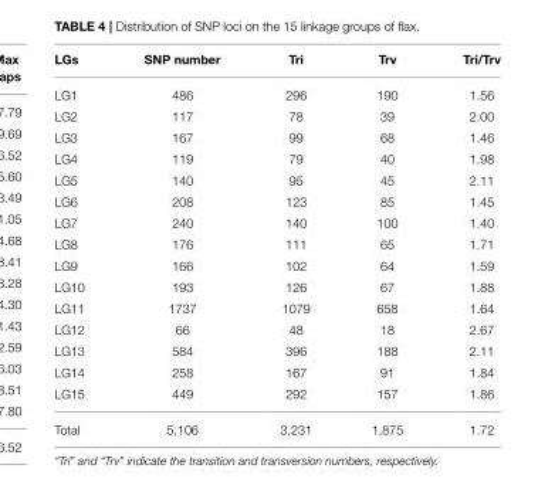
<table><thead><tr><td>LGs</td><td>SNP number</td><td>Tri</td><td>Trv</td><td>Tri/Trv</td></tr></thead><tbody><tr><td>LG1</td><td>486</td><td>296</td><td>190</td><td>1.56</td></tr><tr><td>LG2</td><td>117</td><td>78</td><td>39</td><td>2.00</td></tr><tr><td>LG3</td><td>167</td><td>99</td><td>68</td><td>1.46</td></tr><tr><td>LG4</td><td>119</td><td>79</td><td>40</td><td>1.98</td></tr><tr><td>LG5</td><td>140</td><td>95</td><td>45</td><td>2.11</td></tr><tr><td>LG6</td><td>208</td><td>123</td><td>85</td><td>1.45</td></tr><tr><td>LG7</td><td>240</td><td>140</td><td>100</td><td>1.40</td></tr><tr><td>LG8</td><td>176</td><td>111</td><td>65</td><td>1.71</td></tr><tr><td>LG9</td><td>166</td><td>102</td><td>64</td><td>1.59</td></tr><tr><td>LG10</td><td>193</td><td>126</td><td>67</td><td>1.88</td></tr><tr><td>LG11</td><td>1737</td><td>1079</td><td>658</td><td>1.64</td></tr><tr><td>LG12</td><td>66</td><td>48</td><td>18</td><td>2.67</td></tr><tr><td>LG13</td><td>584</td><td>396</td><td>188</td><td>2.11</td></tr><tr><td>LG14</td><td>258</td><td>167</td><td>91</td><td>1.84</td></tr><tr><td>LG15</td><td>449</td><td>292</td><td>157</td><td>1.86</td></tr><tr><td>Total</td><td>5,106</td><td>3,231</td><td>1,875</td><td>1.72</td></tr></tbody></table>